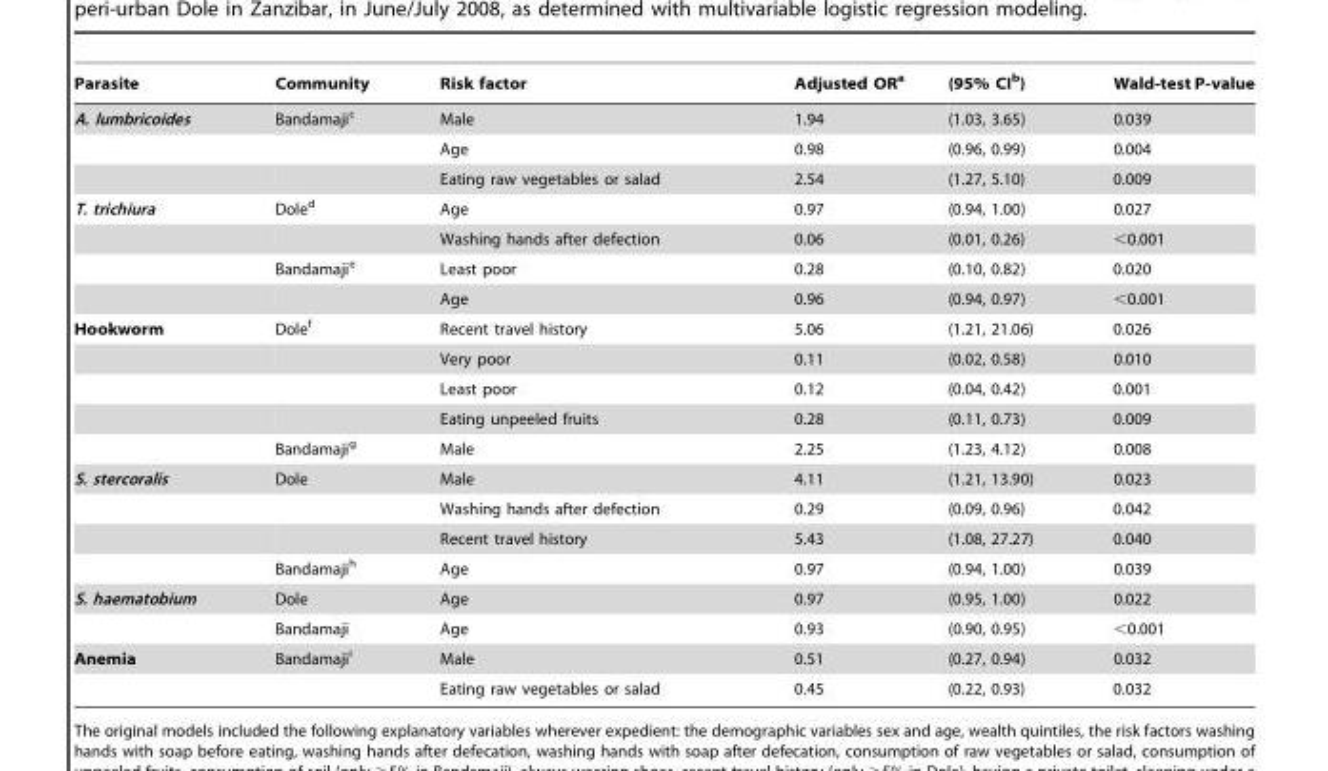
<table><thead><tr><td>Parasite</td><td>Community</td><td>Risk factor</td><td>Adjusted OR<sup>a</sup></td><td>(95% CI<sup>b</sup>)</td><td>Wald-test P-value</td></tr></thead><tbody><tr><td rowspan="3">A. lumbricoides</td><td>Bandamaji<sup>c</sup></td><td>Male</td><td>1.94</td><td>(1.03, 3.65)</td><td>0.039</td></tr><tr><td></td><td>Age</td><td>0.98</td><td>(0.96, 0.99)</td><td>0.004</td></tr><tr><td></td><td>Eating raw vegetables or salad</td><td>2.54</td><td>(1.27, 5.10)</td><td>0.009</td></tr><tr><td rowspan="4">T. trichiura</td><td>Dole<sup>d</sup></td><td>Age</td><td>0.97</td><td>(0.94, 1.00)</td><td>0.027</td></tr><tr><td></td><td>Washing hands after defection</td><td>0.06</td><td>(0.01, 0.26)</td><td>&lt;0.001</td></tr><tr><td>Bandamaji<sup>e</sup></td><td>Least poor</td><td>0.28</td><td>(0.10, 0.82)</td><td>0.020</td></tr><tr><td></td><td>Age</td><td>0.96</td><td>(0.94, 0.97)</td><td>&lt;0.001</td></tr><tr><td rowspan="5">Hookworm</td><td>Dole<sup>f</sup></td><td>Recent travel history</td><td>5.06</td><td>(1.21, 21.06)</td><td>0.026</td></tr><tr><td></td><td>Very poor</td><td>0.11</td><td>(0.02, 0.58)</td><td>0.010</td></tr><tr><td></td><td>Least poor</td><td>0.12</td><td>(0.04, 0.42)</td><td>0.001</td></tr><tr><td></td><td>Eating unpeeled fruits</td><td>0.28</td><td>(0.11, 0.73)</td><td>0.009</td></tr><tr><td>Bandamaji<sup>g</sup></td><td>Male</td><td>2.25</td><td>(1.23, 4.12)</td><td>0.008</td></tr><tr><td rowspan="4">S. stercoralis</td><td>Dole</td><td>Male</td><td>4.11</td><td>(1.21, 13.90)</td><td>0.023</td></tr><tr><td></td><td>Washing hands after defection</td><td>0.29</td><td>(0.09, 0.96)</td><td>0.042</td></tr><tr><td></td><td>Recent travel history</td><td>5.43</td><td>(1.08, 27.27)</td><td>0.040</td></tr><tr><td>Bandamaji<sup>h</sup></td><td>Age</td><td>0.97</td><td>(0.94, 1.00)</td><td>0.039</td></tr><tr><td rowspan="2">S. haematobium</td><td>Dole</td><td>Age</td><td>0.97</td><td>(0.95, 1.00)</td><td>0.022</td></tr><tr><td>Bandamaji</td><td>Age</td><td>0.93</td><td>(0.90, 0.95)</td><td>&lt;0.001</td></tr><tr><td rowspan="2">Anemia</td><td>Bandamaji<sup>i</sup></td><td>Male</td><td>0.51</td><td>(0.27, 0.94)</td><td>0.032</td></tr><tr><td></td><td>Eating raw vegetables or salad</td><td>0.45</td><td>(0.22, 0.93)</td><td>0.032</td></tr></tbody></table>